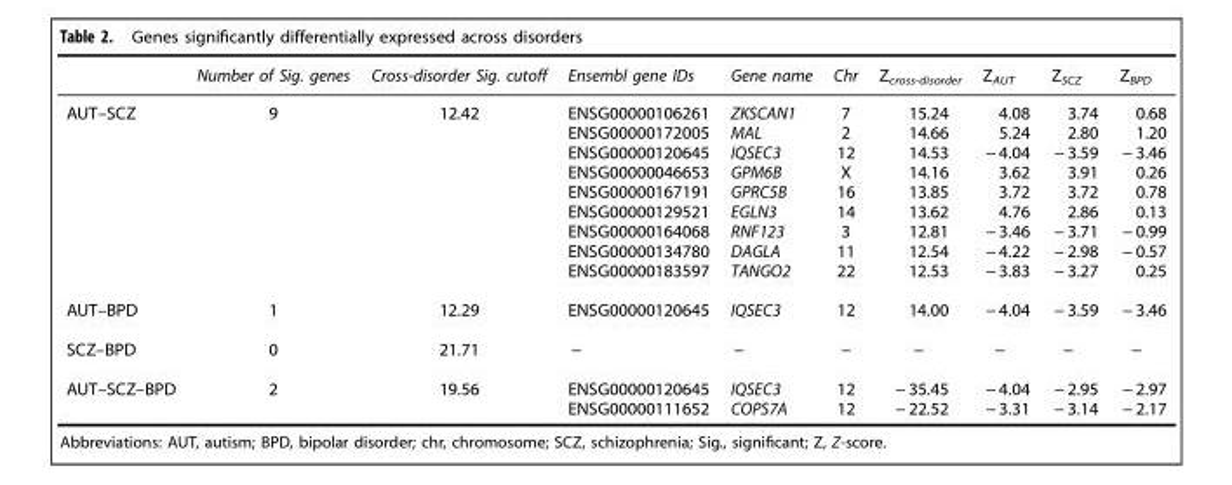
<table><thead><tr><td></td><td>Number of Sig. genes</td><td>Cross-disorder Sig. cutoff</td><td>Ensembl gene IDs</td><td>Gene name</td><td>Chr</td><td>Z<sub>cross-disorder</sub></td><td>Z<sub>AUT</sub></td><td>Z<sub>SCZ</sub></td><td>Z<sub>BPD</sub></td></tr></thead><tbody><tr><td rowspan="9">AUT–SCZ</td><td>9</td><td>12.42</td><td>ENSG00000106261</td><td>ZKSCAN1</td><td>7</td><td>15.24</td><td>4.08</td><td>3.74</td><td>0.68</td></tr><tr><td></td><td></td><td>ENSG00000172005</td><td>MAL</td><td>2</td><td>14.66</td><td>5.24</td><td>2.80</td><td>1.20</td></tr><tr><td></td><td></td><td>ENSG00000120645</td><td>IQSEC3</td><td>12</td><td>14.53</td><td>− 4.04</td><td>− 3.59</td><td>− 3.46</td></tr><tr><td></td><td></td><td>ENSG00000046653</td><td>GPM6B</td><td>X</td><td>14.16</td><td>3.62</td><td>3.91</td><td>0.26</td></tr><tr><td></td><td></td><td>ENSG00000167191</td><td>GPRC5B</td><td>16</td><td>13.85</td><td>3.72</td><td>3.72</td><td>0.78</td></tr><tr><td></td><td></td><td>ENSG00000129521</td><td>EGLN3</td><td>14</td><td>13.62</td><td>4.76</td><td>2.86</td><td>0.13</td></tr><tr><td></td><td></td><td>ENSG00000164068</td><td>RNF123</td><td>3</td><td>12.81</td><td>− 3.46</td><td>− 3.71</td><td>− 0.99</td></tr><tr><td></td><td></td><td>ENSG00000134780</td><td>DAGLA</td><td>11</td><td>12.54</td><td>− 4.22</td><td>− 2.98</td><td>− 0.57</td></tr><tr><td></td><td></td><td>ENSG00000183597</td><td>TANGO2</td><td>22</td><td>12.53</td><td>− 3.83</td><td>− 3.27</td><td>0.25</td></tr><tr><td>AUT–BPD</td><td>1</td><td>12.29</td><td>ENSG00000120645</td><td>IQSEC3</td><td>12</td><td>14.00</td><td>− 4.04</td><td>− 3.59</td><td>− 3.46</td></tr><tr><td>SCZ–BPD</td><td>0</td><td>21.71</td><td>−</td><td>−</td><td>−</td><td>−</td><td>−</td><td>−</td><td>−</td></tr><tr><td rowspan="2">AUT–SCZ–BPD</td><td>2</td><td>19.56</td><td>ENSG00000120645</td><td>IQSEC3</td><td>12</td><td>− 35.45</td><td>− 4.04</td><td>− 2.95</td><td>− 2.97</td></tr><tr><td></td><td></td><td>ENSG00000111652</td><td>COPS7A</td><td>12</td><td>− 22.52</td><td>− 3.31</td><td>− 3.14</td><td>− 2.17</td></tr></tbody></table>